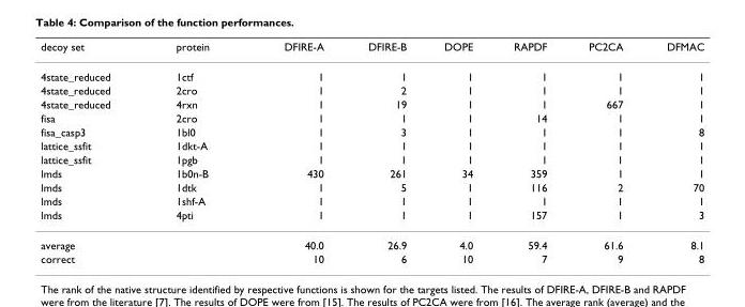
<table><thead><tr><td>decoy set</td><td>protein</td><td>DFIRE-A</td><td>DFIRE-B</td><td>DOPE</td><td>RAPDF</td><td>PC2CA</td><td>DFMAC</td></tr></thead><tbody><tr><td>4state_reduced</td><td>1ctf</td><td>1</td><td>1</td><td>1</td><td>1</td><td>1</td><td>1</td></tr><tr><td>4state_reduced</td><td>2cro</td><td>1</td><td>2</td><td>1</td><td>1</td><td>1</td><td>1</td></tr><tr><td>4state_reduced</td><td>4rxn</td><td>1</td><td>19</td><td>1</td><td>1</td><td>667</td><td>1</td></tr><tr><td>fisa</td><td>2cro</td><td>1</td><td>1</td><td>1</td><td>14</td><td>1</td><td>1</td></tr><tr><td>fisa_casp3</td><td>1bl0</td><td>1</td><td>3</td><td>1</td><td>1</td><td>1</td><td>8</td></tr><tr><td>lattice_ssfit</td><td>1dkt-A</td><td>1</td><td>1</td><td>1</td><td>1</td><td>1</td><td>1</td></tr><tr><td>lattice_ssfit</td><td>1pgb</td><td>1</td><td>1</td><td>1</td><td>1</td><td>1</td><td>1</td></tr><tr><td>lmds</td><td>1b0n-B</td><td>430</td><td>261</td><td>34</td><td>359</td><td>1</td><td>1</td></tr><tr><td>lmds</td><td>1dtk</td><td>1</td><td>5</td><td>1</td><td>116</td><td>2</td><td>70</td></tr><tr><td>lmds</td><td>1shf-A</td><td>1</td><td>1</td><td>1</td><td>1</td><td>1</td><td>1</td></tr><tr><td>lmds</td><td>4pti</td><td>1</td><td>1</td><td>1</td><td>157</td><td>1</td><td>3</td></tr><tr><td>average</td><td></td><td>40.0</td><td>26.9</td><td>4.0</td><td>59.4</td><td>61.6</td><td>8.1</td></tr><tr><td>correct</td><td></td><td>10</td><td>6</td><td>10</td><td>7</td><td>9</td><td>8</td></tr></tbody></table>